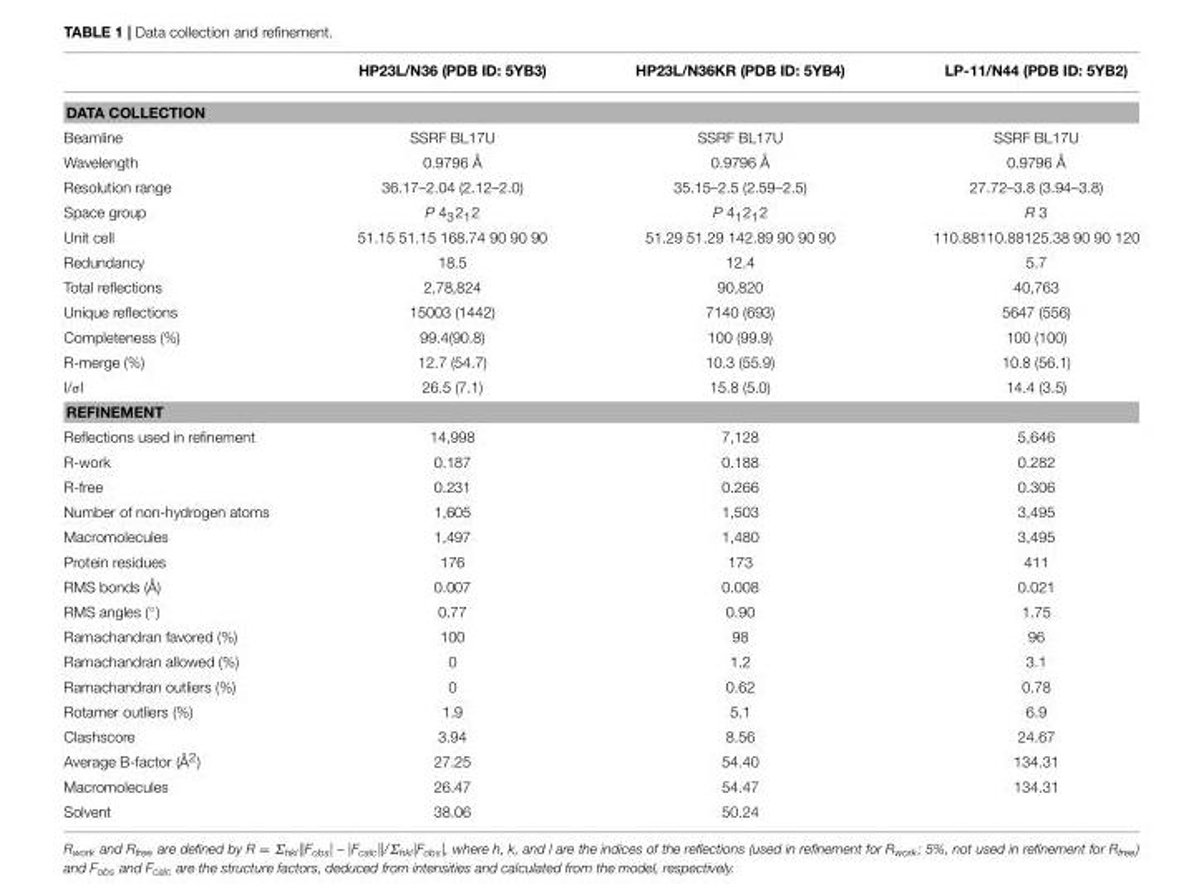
<table><thead><tr><td></td><td>HP23L/N36 (PDB ID: 5YB3)</td><td>HP23L/N36KR (PDB ID: 5YB4)</td><td>LP-11/N44 (PDB ID: 5YB2)</td></tr></thead><tbody><tr><td colspan="4">DATA COLLECTION</td></tr><tr><td>Beamline</td><td>SSRF BL17U</td><td>SSRF BL17U</td><td>SSRF BL17U</td></tr><tr><td>Wavelength</td><td>0.9796 Å</td><td>0.9796 Å</td><td>0.9796 Å</td></tr><tr><td>Resolution range</td><td>36.17–2.04 (2.12–2.0)</td><td>35.15–2.5 (2.59–2.5)</td><td>27.72–3.8 (3.94–3.8)</td></tr><tr><td>Space group</td><td>P 4<sub>3</sub>2<sub>1</sub>2</td><td>P 4<sub>1</sub>2<sub>1</sub>2</td><td>R 3</td></tr><tr><td>Unit cell</td><td>51.15 51.15 168.74 90 90 90</td><td>51.29 51.29 142.89 90 90 90</td><td>110.88110.88125.38 90 90 120</td></tr><tr><td>Redundancy</td><td>18.5</td><td>12.4</td><td>5.7</td></tr><tr><td>Total reflections</td><td>2,78,824</td><td>90,820</td><td>40,763</td></tr><tr><td>Unique reflections</td><td>15003 (1442)</td><td>7140 (693)</td><td>5647 (556)</td></tr><tr><td>Completeness (%)</td><td>99.4(90.8)</td><td>100 (99.9)</td><td>100 (100)</td></tr><tr><td>R-merge (%)</td><td>12.7 (54.7)</td><td>10.3 (55.9)</td><td>10.8 (56.1)</td></tr><tr><td>I/σI</td><td>26.5 (7.1)</td><td>15.8 (5.0)</td><td>14.4 (3.5)</td></tr><tr><td colspan="4">REFINEMENT</td></tr><tr><td>Reflections used in refinement</td><td>14,998</td><td>7,128</td><td>5,646</td></tr><tr><td>R-work</td><td>0.187</td><td>0.188</td><td>0.282</td></tr><tr><td>R-free</td><td>0.231</td><td>0.266</td><td>0.306</td></tr><tr><td>Number of non-hydrogen atoms</td><td>1,605</td><td>1,503</td><td>3,495</td></tr><tr><td>Macromolecules</td><td>1,497</td><td>1,480</td><td>3,495</td></tr><tr><td>Protein residues</td><td>176</td><td>173</td><td>411</td></tr><tr><td>RMS bonds (Å)</td><td>0.007</td><td>0.008</td><td>0.021</td></tr><tr><td>RMS angles (◦)</td><td>0.77</td><td>0.90</td><td>1.75</td></tr><tr><td>Ramachandran favored (%)</td><td>100</td><td>98</td><td>96</td></tr><tr><td>Ramachandran allowed (%)</td><td>0</td><td>1.2</td><td>3.1</td></tr><tr><td>Ramachandran outliers (%)</td><td>0</td><td>0.62</td><td>0.78</td></tr><tr><td>Rotamer outliers (%)</td><td>1.9</td><td>5.1</td><td>6.9</td></tr><tr><td>Clashscore</td><td>3.94</td><td>8.56</td><td>24.67</td></tr><tr><td>Average B-factor (Å<sup>2</sup>)</td><td>27.25</td><td>54.40</td><td>134.31</td></tr><tr><td>Macromolecules</td><td>26.47</td><td>54.47</td><td>134.31</td></tr><tr><td>Solvent</td><td>38.06</td><td>50.24</td><td></td></tr></tbody></table>